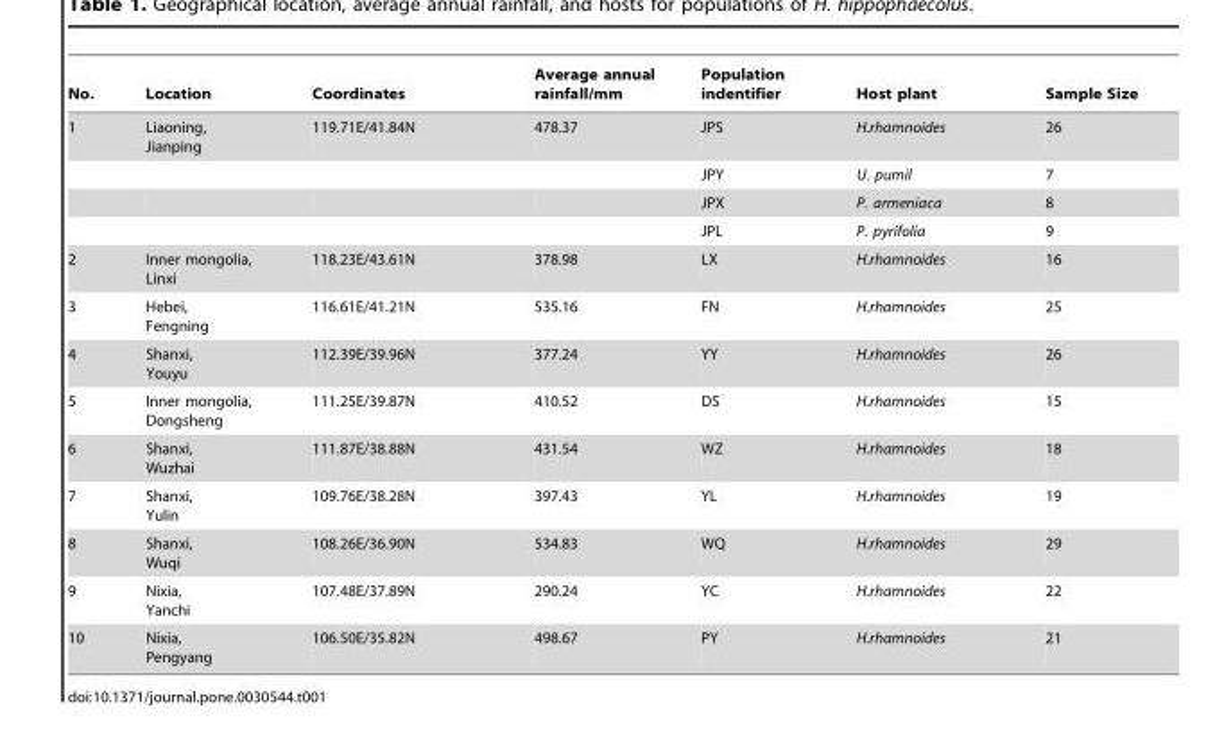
<table><thead><tr><td>No.</td><td>Location</td><td>Coordinates</td><td>Average annual rainfall/mm</td><td>Population indentifier</td><td>Host plant</td><td>Sample Size</td></tr></thead><tbody><tr><td rowspan="4">1</td><td>Liaoning, Jianping</td><td>119.71E/41.84N</td><td>478.37</td><td>JPS</td><td>H.rhamnoides</td><td>26</td></tr><tr><td></td><td></td><td></td><td>JPY</td><td>U. pumil</td><td>7</td></tr><tr><td></td><td></td><td></td><td>JPX</td><td>P. armeniaca</td><td>8</td></tr><tr><td></td><td></td><td></td><td>JPL</td><td>P. pyrifolia</td><td>9</td></tr><tr><td>2</td><td>Inner mongolia, Linxi</td><td>118.23E/43.61N</td><td>378.98</td><td>LX</td><td>H.rhamnoides</td><td>16</td></tr><tr><td>3</td><td>Hebei, Fengning</td><td>116.61E/41.21N</td><td>535.16</td><td>FN</td><td>H.rhamnoides</td><td>25</td></tr><tr><td>4</td><td>Shanxi, Youyu</td><td>112.39E/39.96N</td><td>377.24</td><td>YY</td><td>H.rhamnoides</td><td>26</td></tr><tr><td>5</td><td>Inner mongolia, Dongsheng</td><td>111.25E/39.87N</td><td>410.52</td><td>DS</td><td>H.rhamnoides</td><td>15</td></tr><tr><td>6</td><td>Shanxi, Wuzhai</td><td>111.87E/38.88N</td><td>431.54</td><td>WZ</td><td>H.rhamnoides</td><td>18</td></tr><tr><td>7</td><td>Shanxi, Yulin</td><td>109.76E/38.28N</td><td>397.43</td><td>YL</td><td>H.rhamnoides</td><td>19</td></tr><tr><td>8</td><td>Shanxi, Wuqi</td><td>108.26E/36.90N</td><td>534.83</td><td>WQ</td><td>H.rhamnoides</td><td>29</td></tr><tr><td>9</td><td>Nixia, Yanchi</td><td>107.48E/37.89N</td><td>290.24</td><td>YC</td><td>H.rhamnoides</td><td>22</td></tr><tr><td>10</td><td>Nixia, Pengyang</td><td>106.50E/35.82N</td><td>498.67</td><td>PY</td><td>H.rhamnoides</td><td>21</td></tr></tbody></table>